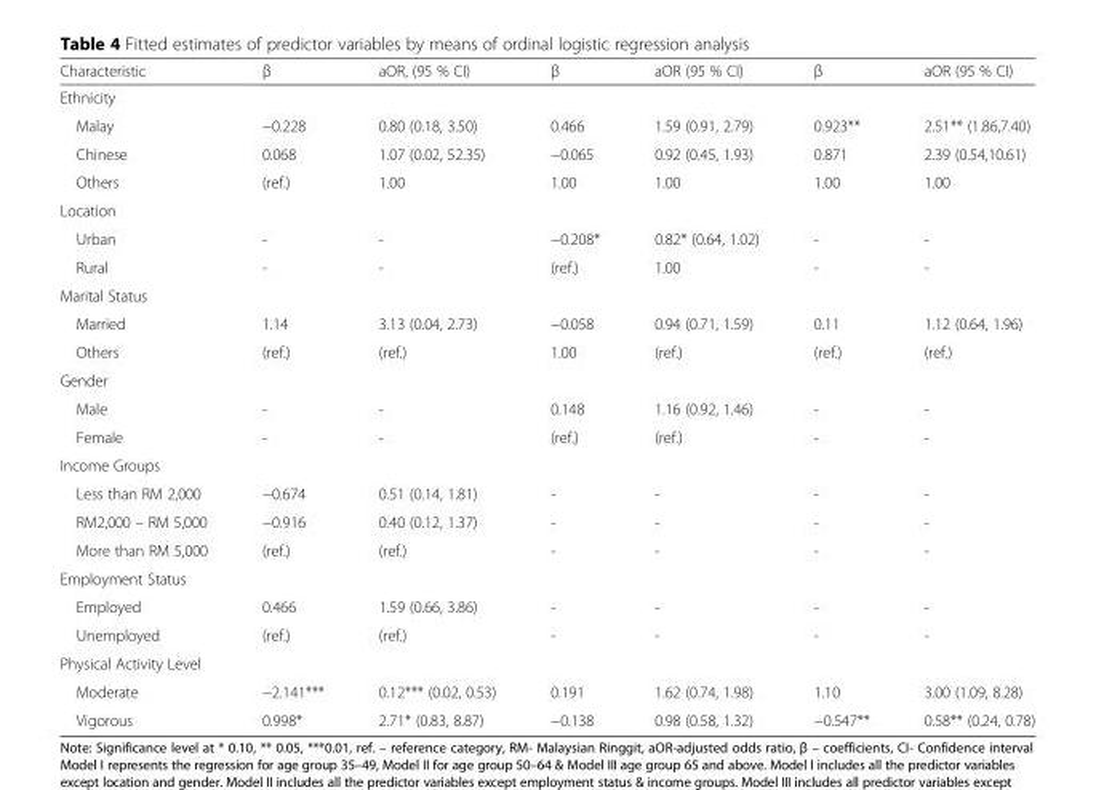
<table><thead><tr><td>Characteristic</td><td>β</td><td>aOR, (95 % CI)</td><td>β</td><td>aOR (95 % CI)</td><td>β</td><td>aOR (95 % CI)</td></tr></thead><tbody><tr><td colspan="7">Ethnicity</td></tr><tr><td>Malay</td><td>−0.228</td><td>0.80 (0.18, 3.50)</td><td>0.466</td><td>1.59 (0.91, 2.79)</td><td>0.923**</td><td>2.51** (1.86,7.40)</td></tr><tr><td>Chinese</td><td>0.068</td><td>1.07 (0.02, 52.35)</td><td>−0.065</td><td>0.92 (0.45, 1.93)</td><td>0.871</td><td>2.39 (0.54,10.61)</td></tr><tr><td>Others</td><td>(ref.)</td><td>1.00</td><td>1.00</td><td>1.00</td><td>1.00</td><td>1.00</td></tr><tr><td colspan="7">Location</td></tr><tr><td>Urban</td><td>-</td><td>-</td><td>−0.208*</td><td>0.82* (0.64, 1.02)</td><td>-</td><td>-</td></tr><tr><td>Rural</td><td>-</td><td>-</td><td>(ref.)</td><td>1.00</td><td>-</td><td>-</td></tr><tr><td colspan="7">Marital Status</td></tr><tr><td>Married</td><td>1.14</td><td>3.13 (0.04, 2.73)</td><td>−0.058</td><td>0.94 (0.71, 1.59)</td><td>0.11</td><td>1.12 (0.64, 1.96)</td></tr><tr><td>Others</td><td>(ref.)</td><td>(ref.)</td><td>1.00</td><td>(ref.)</td><td>(ref.)</td><td>(ref.)</td></tr><tr><td colspan="7">Gender</td></tr><tr><td>Male</td><td>-</td><td>-</td><td>0.148</td><td>1.16 (0.92, 1.46)</td><td>-</td><td>-</td></tr><tr><td>Female</td><td>-</td><td>-</td><td>(ref.)</td><td>(ref.)</td><td>-</td><td>-</td></tr><tr><td colspan="7">Income Groups</td></tr><tr><td>Less than RM 2,000</td><td>−0.674</td><td>0.51 (0.14, 1.81)</td><td>-</td><td>-</td><td>-</td><td>-</td></tr><tr><td>RM2,000 – RM 5,000</td><td>−0.916</td><td>0.40 (0.12, 1.37)</td><td>-</td><td>-</td><td>-</td><td>-</td></tr><tr><td>More than RM 5,000</td><td>(ref.)</td><td>(ref.)</td><td>-</td><td>-</td><td>-</td><td>-</td></tr><tr><td colspan="7">Employment Status</td></tr><tr><td>Employed</td><td>0.466</td><td>1.59 (0.66, 3.86)</td><td>-</td><td>-</td><td>-</td><td>-</td></tr><tr><td>Unemployed</td><td>(ref.)</td><td>(ref.)</td><td>-</td><td>-</td><td>-</td><td>-</td></tr><tr><td colspan="7">Physical Activity Level</td></tr><tr><td>Moderate</td><td>−2.141***</td><td>0.12*** (0.02, 0.53)</td><td>0.191</td><td>1.62 (0.74, 1.98)</td><td>1.10</td><td>3.00 (1.09, 8.28)</td></tr><tr><td>Vigorous</td><td>0.998*</td><td>2.71* (0.83, 8.87)</td><td>−0.138</td><td>0.98 (0.58, 1.32)</td><td>−0.547**</td><td>0.58** (0.24, 0.78)</td></tr></tbody></table>